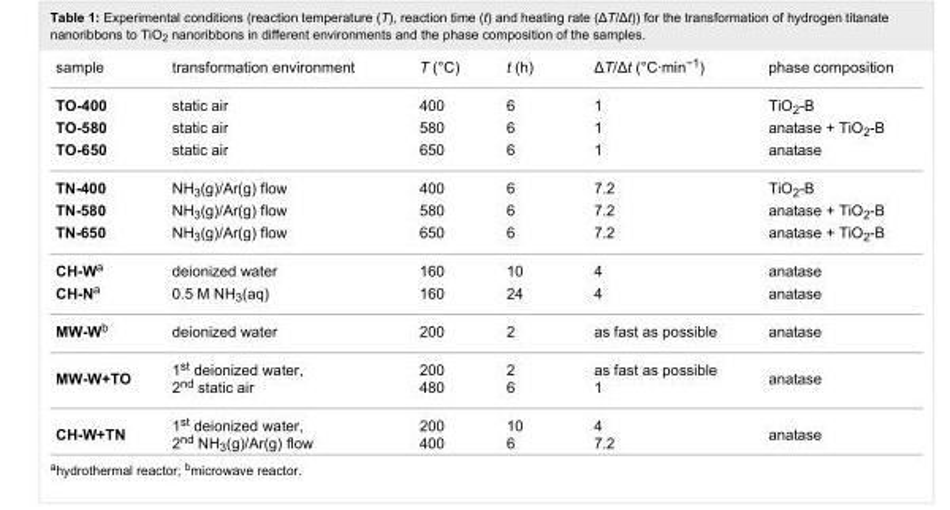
<table><tbody><tr><td>sample</td><td>transformation environment</td><td>T (°C)</td><td>t (h)</td><td>ΔT/Δt (°C·min<sup>−1</sup>)</td><td>phase composition</td></tr><tr><td>TO-400</td><td>static air</td><td>400</td><td>6</td><td>1</td><td>TiO<sub>2</sub>-B</td></tr><tr><td>TO-580</td><td>static air</td><td>580</td><td>6</td><td>1</td><td>anatase + TiO<sub>2</sub>-B</td></tr><tr><td>TO-650</td><td>static air</td><td>650</td><td>6</td><td>1</td><td>anatase</td></tr><tr><td>TN-400</td><td>NH<sub>3</sub>(g)/Ar(g) flow</td><td>400</td><td>6</td><td>7.2</td><td>TiO<sub>2</sub>-B</td></tr><tr><td>TN-580</td><td>NH<sub>3</sub>(g)/Ar(g) flow</td><td>580</td><td>6</td><td>7.2</td><td>anatase + TiO<sub>2</sub>-B</td></tr><tr><td>TN-650</td><td>NH<sub>3</sub>(g)/Ar(g) flow</td><td>650</td><td>6</td><td>7.2</td><td>anatase + TiO<sub>2</sub>-B</td></tr><tr><td>CH-W<sup>a</sup></td><td>deionized water</td><td>160</td><td>10</td><td>4</td><td>anatase</td></tr><tr><td>CH-N<sup>a</sup></td><td>0.5 M NH<sub>3</sub>(aq)</td><td>160</td><td>24</td><td>4</td><td>anatase</td></tr><tr><td>MW-W<sup>b</sup></td><td>deionized water</td><td>200</td><td>2</td><td>as fast as possible</td><td>anatase</td></tr><tr><td>MW-W+TO</td><td>1<sup>st</sup> deionized water, 2<sup>nd</sup> static air</td><td>200 480</td><td>2 6</td><td>as fast as possible 1</td><td>anatase</td></tr><tr><td>CH-W+TN</td><td>1<sup>st</sup> deionized water, 2<sup>nd</sup> NH<sub>3</sub>(g)/Ar(g) flow</td><td>200 400</td><td>10 6</td><td>4 7.2</td><td>anatase</td></tr></tbody></table>